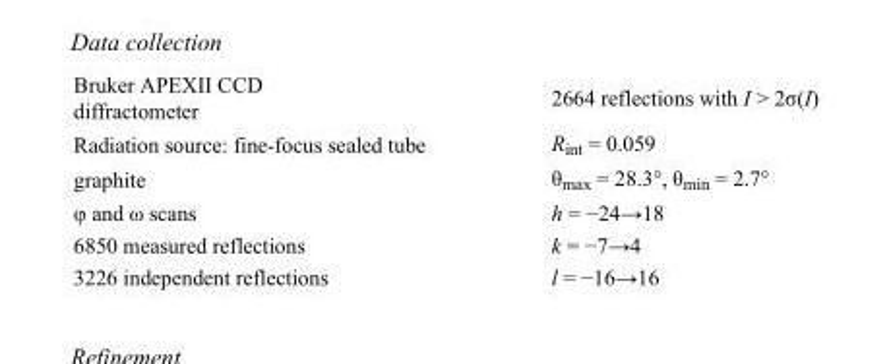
<table><tbody><tr><td>Bruker APEXII CCD diffractometer</td><td>2664 reflections with I &gt; 2σ(I)</td></tr><tr><td>Radiation source: fine-focus sealed tube</td><td>R<sub>int</sub> = 0.059</td></tr><tr><td>graphite</td><td>θ<sub>max</sub> = 28.3°, θ<sub>min</sub> = 2.7°</td></tr><tr><td>φ and ω scans</td><td>h = −24→18</td></tr><tr><td>6850 measured reflections</td><td>k = −7→4</td></tr><tr><td>3226 independent reflections</td><td>l = −16→16</td></tr></tbody></table>